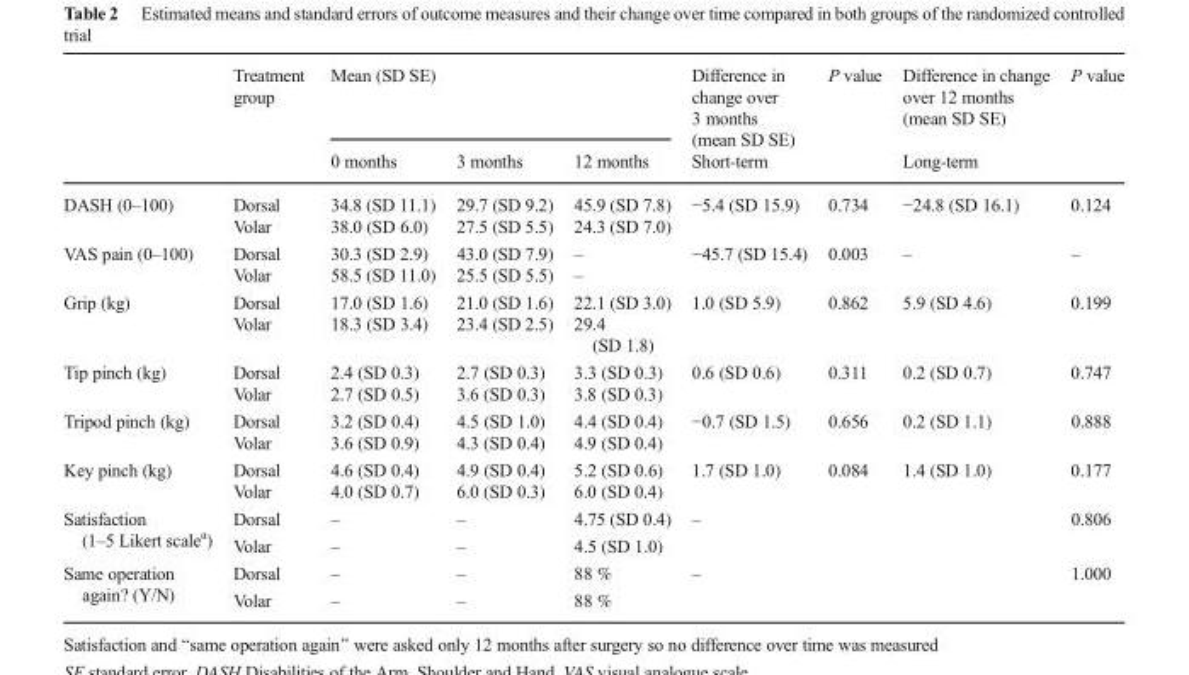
<table><thead><tr><td rowspan="2"></td><td rowspan="2">Treatment group</td><td colspan="3">Mean (SD SE)</td><td>Difference in change over 3 months (mean SD SE)</td><td>P value</td><td>Difference in change over 12 months (mean SD SE)</td><td>P value</td></tr><tr><td>0 months</td><td>3 months</td><td>12 months</td><td colspan="2">Short-term</td><td colspan="2">Long-term</td></tr></thead><tbody><tr><td rowspan="2">DASH (0–100)</td><td>Dorsal</td><td>34.8 (SD 11.1)</td><td>29.7 (SD 9.2)</td><td>45.9 (SD 7.8)</td><td rowspan="2">−5.4 (SD 15.9)</td><td rowspan="2">0.734</td><td rowspan="2">−24.8 (SD 16.1)</td><td rowspan="2">0.124</td></tr><tr><td>Volar</td><td>38.0 (SD 6.0)</td><td>27.5 (SD 5.5)</td><td>24.3 (SD 7.0)</td></tr><tr><td rowspan="2">VAS pain (0–100)</td><td>Dorsal</td><td>30.3 (SD 2.9)</td><td>43.0 (SD 7.9)</td><td>–</td><td rowspan="2">−45.7 (SD 15.4)</td><td rowspan="2">0.003</td><td rowspan="2">–</td><td rowspan="2">–</td></tr><tr><td>Volar</td><td>58.5 (SD 11.0)</td><td>25.5 (SD 5.5)</td><td>–</td></tr><tr><td rowspan="2">Grip (kg)</td><td>Dorsal</td><td>17.0 (SD 1.6)</td><td>21.0 (SD 1.6)</td><td>22.1 (SD 3.0)</td><td rowspan="2">1.0 (SD 5.9)</td><td rowspan="2">0.862</td><td rowspan="2">5.9 (SD 4.6)</td><td rowspan="2">0.199</td></tr><tr><td>Volar</td><td>18.3 (SD 3.4)</td><td>23.4 (SD 2.5)</td><td>29.4 (SD 1.8)</td></tr><tr><td rowspan="2">Tip pinch (kg)</td><td>Dorsal</td><td>2.4 (SD 0.3)</td><td>2.7 (SD 0.3)</td><td>3.3 (SD 0.3)</td><td rowspan="2">0.6 (SD 0.6)</td><td rowspan="2">0.311</td><td rowspan="2">0.2 (SD 0.7)</td><td rowspan="2">0.747</td></tr><tr><td>Volar</td><td>2.7 (SD 0.5)</td><td>3.6 (SD 0.3)</td><td>3.8 (SD 0.3)</td></tr><tr><td rowspan="2">Tripod pinch (kg)</td><td>Dorsal</td><td>3.2 (SD 0.4)</td><td>4.5 (SD 1.0)</td><td>4.4 (SD 0.4)</td><td rowspan="2">−0.7 (SD 1.5)</td><td rowspan="2">0.656</td><td rowspan="2">0.2 (SD 1.1)</td><td rowspan="2">0.888</td></tr><tr><td>Volar</td><td>3.6 (SD 0.9)</td><td>4.3 (SD 0.4)</td><td>4.9 (SD 0.4)</td></tr><tr><td rowspan="2">Key pinch (kg)</td><td>Dorsal</td><td>4.6 (SD 0.4)</td><td>4.9 (SD 0.4)</td><td>5.2 (SD 0.6)</td><td rowspan="2">1.7 (SD 1.0)</td><td rowspan="2">0.084</td><td rowspan="2">1.4 (SD 1.0)</td><td rowspan="2">0.177</td></tr><tr><td>Volar</td><td>4.0 (SD 0.7)</td><td>6.0 (SD 0.3)</td><td>6.0 (SD 0.4)</td></tr><tr><td rowspan="2">Satisfaction (1–5 Likert scale<sup>a</sup>)</td><td>Dorsal</td><td>–</td><td>–</td><td>4.75 (SD 0.4)</td><td rowspan="2" colspan="2">–</td><td rowspan="4"></td><td>0.806</td></tr><tr><td>Volar</td><td>–</td><td>–</td><td>4.5 (SD 1.0)</td><td></td></tr><tr><td rowspan="2">Same operation again? (Y/N)</td><td>Dorsal</td><td>–</td><td>–</td><td>88 %</td><td rowspan="2" colspan="2">–</td><td>1.000</td></tr><tr><td>Volar</td><td>–</td><td>–</td><td>88 %</td><td></td></tr></tbody></table>